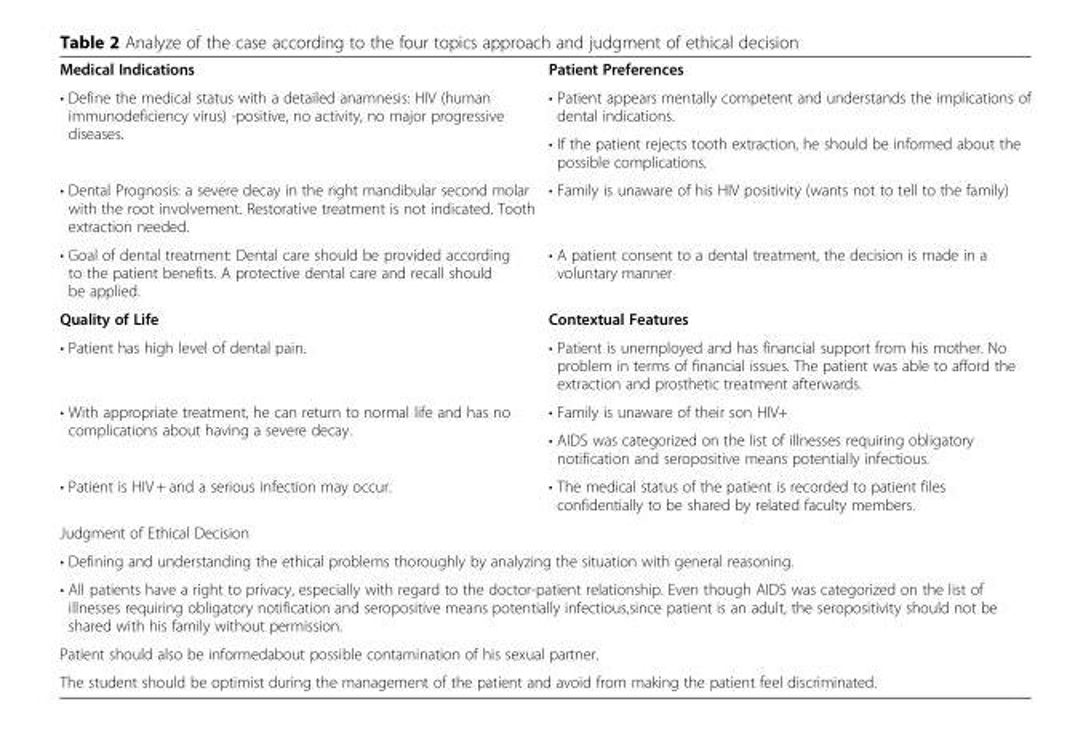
<table><tbody><tr><td>Medical Indications</td><td>Patient Preferences</td></tr><tr><td rowspan="2">• Define the medical status with a detailed anamnesis: HIV (human immunodeficiency virus) -positive, no activity, no major progressive diseases.</td><td>• Patient appears mentally competent and understands the implications of dental indications.</td></tr><tr><td>• If the patient rejects tooth extraction, he should be informed about the possible complications.</td></tr><tr><td>• Dental Prognosis: a severe decay in the right mandibular second molar with the root involvement. Restorative treatment is not indicated. Tooth extraction needed.</td><td>• Family is unaware of his HIV positivity (wants not to tell to the family)</td></tr><tr><td>• Goal of dental treatment: Dental care should be provided according to the patient benefits. A protective dental care and recall should be applied.</td><td>• A patient consent to a dental treatment, the decision is made in a voluntary manner</td></tr><tr><td>Quality of Life</td><td>Contextual Features</td></tr><tr><td>• Patient has high level of dental pain.</td><td>• Patient is unemployed and has financial support from his mother. No problem in terms of financial issues. The patient was able to afford the extraction and prosthetic treatment afterwards.</td></tr><tr><td rowspan="2">• With appropriate treatment, he can return to normal life and has no complications about having a severe decay.</td><td>• Family is unaware of their son HIV+</td></tr><tr><td>• AIDS was categorized on the list of illnesses requiring obligatory notification and seropositive means potentially infectious.</td></tr><tr><td>• Patient is HIV + and a serious infection may occur.</td><td>• The medical status of the patient is recorded to patient files confidentially to be shared by related faculty members.</td></tr><tr><td colspan="2">Judgment of Ethical Decision</td></tr><tr><td colspan="2">• Defining and understanding the ethical problems thoroughly by analyzing the situation with general reasoning.</td></tr><tr><td colspan="2">• All patients have a right to privacy, especially with regard to the doctor-patient relationship. Even though AIDS was categorized on the list of illnesses requiring obligatory notification and seropositive means potentially infectious,since patient is an adult, the seropositivity should not be shared with his family without permission.</td></tr><tr><td colspan="2">Patient should also be informedabout possible contamination of his sexual partner.</td></tr><tr><td colspan="2">The student should be optimist during the management of the patient and avoid from making the patient feel discriminated.</td></tr></tbody></table>